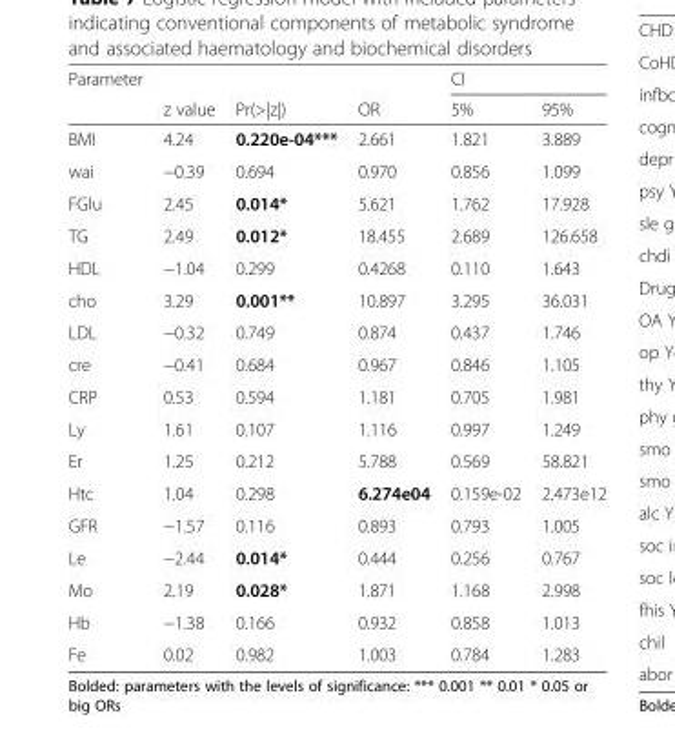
<table><thead><tr><td rowspan="2">Parameter</td><td rowspan="2">z value</td><td rowspan="2">Pr(&gt;|z|)</td><td rowspan="2">OR</td><td colspan="2">CI</td></tr><tr><td>5%</td><td>95%</td></tr></thead><tbody><tr><td>BMI</td><td>4.24</td><td>0.220e-04***</td><td>2.661</td><td>1.821</td><td>3.889</td></tr><tr><td>wai</td><td>−0.39</td><td>0.694</td><td>0.970</td><td>0.856</td><td>1.099</td></tr><tr><td>FGlu</td><td>2.45</td><td>0.014*</td><td>5.621</td><td>1.762</td><td>17.928</td></tr><tr><td>TG</td><td>2.49</td><td>0.012*</td><td>18.455</td><td>2.689</td><td>126.658</td></tr><tr><td>HDL</td><td>−1.04</td><td>0.299</td><td>0.4268</td><td>0.110</td><td>1.643</td></tr><tr><td>cho</td><td>3.29</td><td>0.001**</td><td>10.897</td><td>3.295</td><td>36.031</td></tr><tr><td>LDL</td><td>−0.32</td><td>0.749</td><td>0.874</td><td>0.437</td><td>1.746</td></tr><tr><td>cre</td><td>−0.41</td><td>0.684</td><td>0.967</td><td>0.846</td><td>1.105</td></tr><tr><td>CRP</td><td>0.53</td><td>0.594</td><td>1.181</td><td>0.705</td><td>1.981</td></tr><tr><td>Ly</td><td>1.61</td><td>0.107</td><td>1.116</td><td>0.997</td><td>1.249</td></tr><tr><td>Er</td><td>1.25</td><td>0.212</td><td>5.788</td><td>0.569</td><td>58.821</td></tr><tr><td>Htc</td><td>1.04</td><td>0.298</td><td>6.274e04</td><td>0.159e-02</td><td>2.473e12</td></tr><tr><td>GFR</td><td>−1.57</td><td>0.116</td><td>0.893</td><td>0.793</td><td>1.005</td></tr><tr><td>Le</td><td>−2.44</td><td>0.014*</td><td>0.444</td><td>0.256</td><td>0.767</td></tr><tr><td>Mo</td><td>2.19</td><td>0.028*</td><td>1.871</td><td>1.168</td><td>2.998</td></tr><tr><td>Hb</td><td>−1.38</td><td>0.166</td><td>0.932</td><td>0.858</td><td>1.013</td></tr><tr><td>Fe</td><td>0.02</td><td>0.982</td><td>1.003</td><td>0.784</td><td>1.283</td></tr></tbody></table>